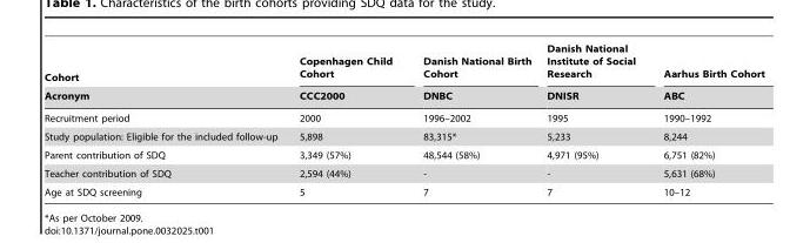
<table><thead><tr><td rowspan="2">Cohort Acronym</td><td rowspan="2">Copenhagen Child Cohort CCC2000</td><td rowspan="2">Danish National Birth Cohort DNBC</td><td rowspan="2">Danish National Institute of Social Research DNISR</td><td rowspan="2">Aarhus Birth Cohort ABC</td></tr><tr></tr></thead><tbody><tr><td>Recruitment period</td><td>2000</td><td>1996–2002</td><td>1995</td><td>1990–1992</td></tr><tr><td>Study population: Eligible for the included follow-up</td><td>5,898</td><td>83,315*</td><td>5,233</td><td>8,244</td></tr><tr><td>Parent contribution of SDQ</td><td>3,349 (57%)</td><td>48,544 (58%)</td><td>4,971 (95%)</td><td>6,751 (82%)</td></tr><tr><td>Teacher contribution of SDQ</td><td>2,594 (44%)</td><td>-</td><td>-</td><td>5,631 (68%)</td></tr><tr><td>Age at SDQ screening</td><td>5</td><td>7</td><td>7</td><td>10–12</td></tr></tbody></table>